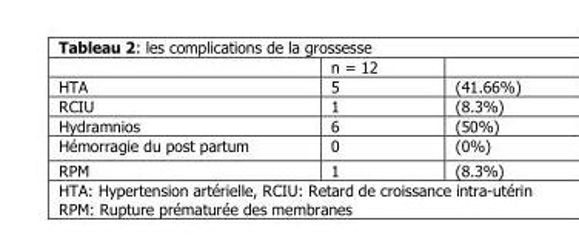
<table><thead><tr><td></td><td>n = 12</td><td></td></tr></thead><tbody><tr><td>HTA</td><td>5</td><td>(41.66%)</td></tr><tr><td>RCIU</td><td>1</td><td>(8.3%)</td></tr><tr><td>Hydramnios</td><td>6</td><td>(50%)</td></tr><tr><td>Hémorragie du post partum</td><td>0</td><td>(0%)</td></tr><tr><td>RPM</td><td>1</td><td>(8.3%)</td></tr></tbody></table>